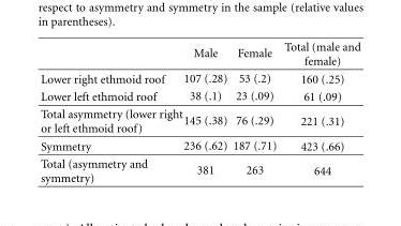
<table><thead><tr><td></td><td>Male</td><td>Female</td><td>Total (male and female)</td></tr></thead><tbody><tr><td>Lower right ethmoid roof</td><td>107 (.28)</td><td>53 (.2)</td><td>160 (.25)</td></tr><tr><td>Lower left ethmoid roof</td><td>38 (.1)</td><td>23 (.09)</td><td>61 (.09)</td></tr><tr><td>Total asymmetry (lower right or left ethmoid roof)</td><td>145 (.38)</td><td>76 (.29)</td><td>221 (.31)</td></tr><tr><td>Symmetry</td><td>236 (.62)</td><td>187 (.71)</td><td>423 (.66)</td></tr><tr><td>Total (asymmetry and symmetry)</td><td>381</td><td>263</td><td>644</td></tr></tbody></table>